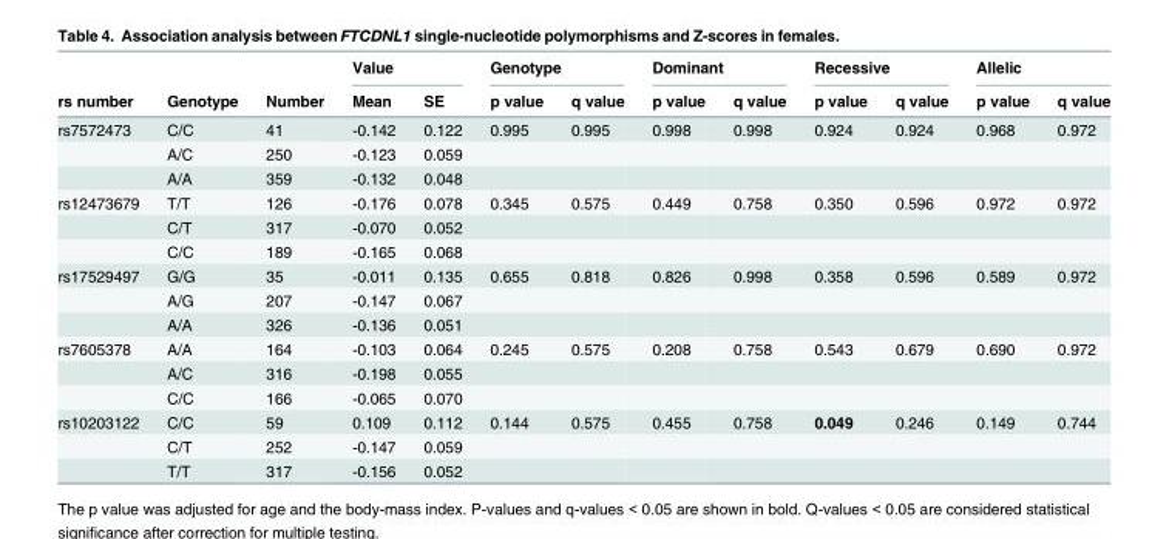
<table><thead><tr><td rowspan="2">rs number</td><td rowspan="2">Genotype</td><td rowspan="2">Number</td><td colspan="2">Value</td><td colspan="2">Genotype</td><td colspan="2">Dominant</td><td colspan="2">Recessive</td><td colspan="2">Allelic</td></tr><tr><td>Mean</td><td>SE</td><td>p value</td><td>q value</td><td>p value</td><td>q value</td><td>p value</td><td>q value</td><td>p value</td><td>q value</td></tr></thead><tbody><tr><td rowspan="3">rs7572473</td><td>C/C</td><td>41</td><td>-0.142</td><td>0.122</td><td>0.995</td><td>0.995</td><td>0.998</td><td>0.998</td><td>0.924</td><td>0.924</td><td>0.968</td><td>0.972</td></tr><tr><td>A/C</td><td>250</td><td>-0.123</td><td>0.059</td><td></td><td></td><td></td><td></td><td></td><td></td><td></td><td></td></tr><tr><td>A/A</td><td>359</td><td>-0.132</td><td>0.048</td><td></td><td></td><td></td><td></td><td></td><td></td><td></td><td></td></tr><tr><td rowspan="3">rs12473679</td><td>T/T</td><td>126</td><td>-0.176</td><td>0.078</td><td>0.345</td><td>0.575</td><td>0.449</td><td>0.758</td><td>0.350</td><td>0.596</td><td>0.972</td><td>0.972</td></tr><tr><td>C/T</td><td>317</td><td>-0.070</td><td>0.052</td><td></td><td></td><td></td><td></td><td></td><td></td><td></td><td></td></tr><tr><td>C/C</td><td>189</td><td>-0.165</td><td>0.068</td><td></td><td></td><td></td><td></td><td></td><td></td><td></td><td></td></tr><tr><td rowspan="3">rs17529497</td><td>G/G</td><td>35</td><td>-0.011</td><td>0.135</td><td>0.655</td><td>0.818</td><td>0.826</td><td>0.998</td><td>0.358</td><td>0.596</td><td>0.589</td><td>0.972</td></tr><tr><td>A/G</td><td>207</td><td>-0.147</td><td>0.067</td><td></td><td></td><td></td><td></td><td></td><td></td><td></td><td></td></tr><tr><td>A/A</td><td>326</td><td>-0.136</td><td>0.051</td><td></td><td></td><td></td><td></td><td></td><td></td><td></td><td></td></tr><tr><td rowspan="3">rs7605378</td><td>A/A</td><td>164</td><td>-0.103</td><td>0.064</td><td>0.245</td><td>0.575</td><td>0.208</td><td>0.758</td><td>0.543</td><td>0.679</td><td>0.690</td><td>0.972</td></tr><tr><td>A/C</td><td>316</td><td>-0.198</td><td>0.055</td><td></td><td></td><td></td><td></td><td></td><td></td><td></td><td></td></tr><tr><td>C/C</td><td>166</td><td>-0.065</td><td>0.070</td><td></td><td></td><td></td><td></td><td></td><td></td><td></td><td></td></tr><tr><td rowspan="3">rs10203122</td><td>C/C</td><td>59</td><td>0.109</td><td>0.112</td><td>0.144</td><td>0.575</td><td>0.455</td><td>0.758</td><td>0.049</td><td>0.246</td><td>0.149</td><td>0.744</td></tr><tr><td>C/T</td><td>252</td><td>-0.147</td><td>0.059</td><td></td><td></td><td></td><td></td><td></td><td></td><td></td><td></td></tr><tr><td>T/T</td><td>317</td><td>-0.156</td><td>0.052</td><td></td><td></td><td></td><td></td><td></td><td></td><td></td><td></td></tr></tbody></table>